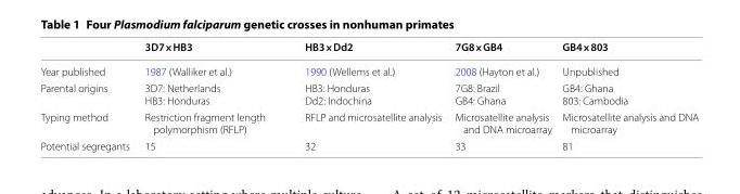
<table><thead><tr><td></td><td>3D7×HB3</td><td>HB3×Dd2</td><td>7G8×GB4</td><td>GB4×803</td></tr></thead><tbody><tr><td>Year published</td><td>1987 (Walliker et al.)</td><td>1990 (Wellems et al.)</td><td>2008 (Hayton et al.)</td><td>Unpublished</td></tr><tr><td>Parental origins</td><td>3D7: Netherlands HB3: Honduras</td><td>HB3: Honduras Dd2: Indochina</td><td>7G8: Brazil GB4: Ghana</td><td>GB4: Ghana 803: Cambodia</td></tr><tr><td>Typing method</td><td>Restriction fragment length polymorphism (RFLP)</td><td>RFLP and microsatellite analysis</td><td>Microsatellite analysis and DNA microarray</td><td>Microsatellite analysis and DNA microarray</td></tr><tr><td>Potential segregants</td><td>15</td><td>32</td><td>33</td><td>81</td></tr></tbody></table>